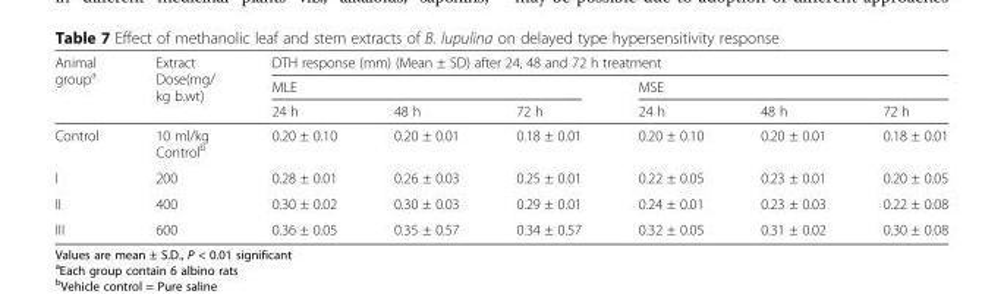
<table><thead><tr><td rowspan="3">Animal group<sup>a</sup></td><td rowspan="3">Extract Dose(mg/ kg b.wt)</td><td colspan="6">DTH response (mm) (Mean ± SD) after 24, 48 and 72 h treatment</td></tr><tr><td colspan="3">MLE</td><td colspan="3">MSE</td></tr><tr><td>24 h</td><td>48 h</td><td>72 h</td><td>24 h</td><td>48 h</td><td>72 h</td></tr></thead><tbody><tr><td>Control</td><td>10 ml/kg Control<sup>b</sup></td><td>0.20 ± 0.10</td><td>0.20 ± 0.01</td><td>0.18 ± 0.01</td><td>0.20 ± 0.10</td><td>0.20 ± 0.01</td><td>0.18 ± 0.01</td></tr><tr><td>I</td><td>200</td><td>0.28 ± 0.01</td><td>0.26 ± 0.03</td><td>0.25 ± 0.01</td><td>0.22 ± 0.05</td><td>0.23 ± 0.01</td><td>0.20 ± 0.05</td></tr><tr><td>II</td><td>400</td><td>0.30 ± 0.02</td><td>0.30 ± 0.03</td><td>0.29 ± 0.01</td><td>0.24 ± 0.01</td><td>0.23 ± 0.03</td><td>0.22 ± 0.08</td></tr><tr><td>III</td><td>600</td><td>0.36 ± 0.05</td><td>0.35 ± 0.57</td><td>0.34 ± 0.57</td><td>0.32 ± 0.05</td><td>0.31 ± 0.02</td><td>0.30 ± 0.08</td></tr></tbody></table>